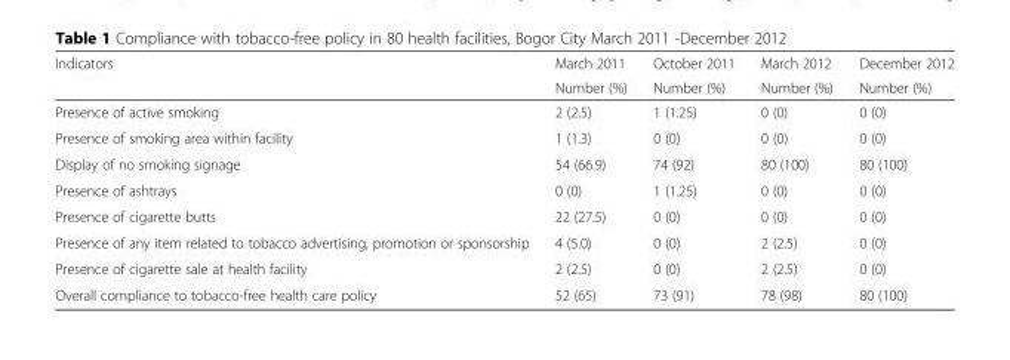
<table><thead><tr><td rowspan="2">Indicators</td><td rowspan="2">March 2011 Number (%)</td><td rowspan="2">October 2011 Number (%)</td><td rowspan="2">March 2012 Number (%)</td><td rowspan="2">December 2012 Number (%)</td></tr><tr></tr></thead><tbody><tr><td>Presence of active smoking</td><td>2 (2.5)</td><td>1 (1.25)</td><td>0 (0)</td><td>0 (0)</td></tr><tr><td>Presence of smoking area within facility</td><td>1 (1.3)</td><td>0 (0)</td><td>0 (0)</td><td>0 (0)</td></tr><tr><td>Display of no smoking signage</td><td>54 (66.9)</td><td>74 (92)</td><td>80 (100)</td><td>80 (100)</td></tr><tr><td>Presence of ashtrays</td><td>0 (0)</td><td>1 (1.25)</td><td>0 (0)</td><td>0 (0)</td></tr><tr><td>Presence of cigarette butts</td><td>22 (27.5)</td><td>0 (0)</td><td>0 (0)</td><td>0 (0)</td></tr><tr><td>Presence of any item related to tobacco advertising, promotion or sponsorship</td><td>4 (5.0)</td><td>0 (0)</td><td>2 (2.5)</td><td>0 (0)</td></tr><tr><td>Presence of cigarette sale at health facility</td><td>2 (2.5)</td><td>0 (0)</td><td>2 (2.5)</td><td>0 (0)</td></tr><tr><td>Overall compliance to tobacco-free health care policy</td><td>52 (65)</td><td>73 (91)</td><td>78 (98)</td><td>80 (100)</td></tr></tbody></table>